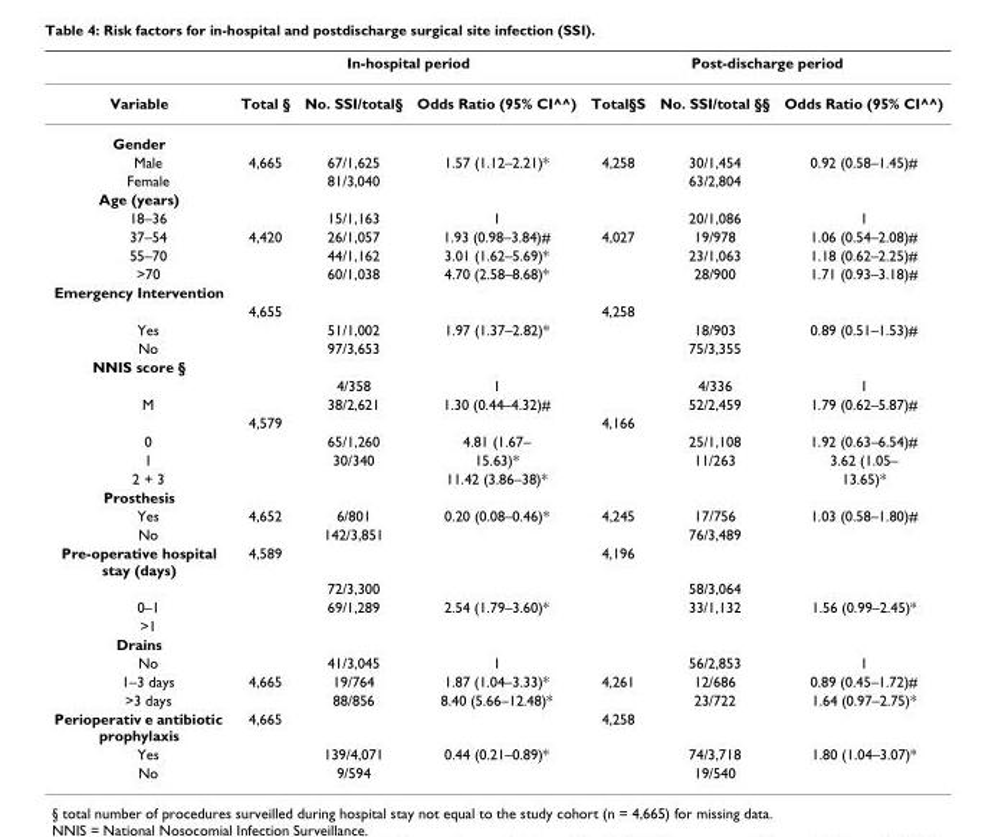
<table><thead><tr><td rowspan="2">Variable</td><td colspan="3">In-hospital period</td><td colspan="3">Post-discharge period</td></tr><tr><td>Total §</td><td>No. SSI/total§</td><td>Odds Ratio (95% CI^^)</td><td>Total§S</td><td>No. SSI/total §§</td><td>Odds Ratio (95% CI^^)</td></tr></thead><tbody><tr><td colspan="7">Gender</td></tr><tr><td>Male</td><td>4,665</td><td>67/1,625</td><td>1.57 (1.12–2.21)*</td><td>4,258</td><td>30/1,454</td><td>0.92 (0.58–1.45)#</td></tr><tr><td>Female</td><td></td><td>81/3,040</td><td></td><td></td><td>63/2,804</td><td></td></tr><tr><td colspan="7">Age (years)</td></tr><tr><td>18–36</td><td></td><td>15/1,163</td><td>1</td><td></td><td>20/1,086</td><td>1</td></tr><tr><td>37–54</td><td>4,420</td><td>26/1,057</td><td>1.93 (0.98–3.84)#</td><td>4,027</td><td>19/978</td><td>1.06 (0.54–2.08)#</td></tr><tr><td>55–70</td><td></td><td>44/1,162</td><td>3.01 (1.62–5.69)*</td><td></td><td>23/1,063</td><td>1.18 (0.62–2.25)#</td></tr><tr><td>&gt;70</td><td></td><td>60/1,038</td><td>4.70 (2.58–8.68)*</td><td></td><td>28/900</td><td>1.71 (0.93–3.18)#</td></tr><tr><td colspan="7">Emergency Intervention</td></tr><tr><td></td><td>4,655</td><td></td><td></td><td>4,258</td><td></td><td></td></tr><tr><td>Yes</td><td></td><td>51/1,002</td><td>1.97 (1.37–2.82)*</td><td></td><td>18/903</td><td>0.89 (0.51–1.53)#</td></tr><tr><td>No</td><td></td><td>97/3,653</td><td></td><td></td><td>75/3,355</td><td></td></tr><tr><td colspan="7">NNIS score §</td></tr><tr><td></td><td></td><td>4/358</td><td>1</td><td></td><td>4/336</td><td>1</td></tr><tr><td rowspan="2">M</td><td></td><td>38/2,621</td><td>1.30 (0.44–4.32)#</td><td></td><td>52/2,459</td><td>1.79 (0.62–5.87)#</td></tr><tr><td>4,579</td><td></td><td></td><td>4,166</td><td></td><td></td></tr><tr><td>0</td><td></td><td>65/1,260</td><td>4.81 (1.67–</td><td></td><td>25/1,108</td><td>1.92 (0.63–6.54)#</td></tr><tr><td>1</td><td></td><td>30/340</td><td>15.63)*</td><td></td><td>11/263</td><td>3.62 (1.05–</td></tr><tr><td>2 + 3</td><td></td><td></td><td>11.42 (3.86–38)*</td><td></td><td></td><td>13.65)*</td></tr><tr><td colspan="7">Prosthesis</td></tr><tr><td>Yes</td><td>4,652</td><td>6/801</td><td>0.20 (0.08–0.46)*</td><td>4,245</td><td>17/756</td><td>1.03 (0.58–1.80)#</td></tr><tr><td>No</td><td></td><td>142/3,851</td><td></td><td></td><td>76/3,489</td><td></td></tr><tr><td rowspan="2">Pre-operative hospital stay (days)</td><td>4,589</td><td></td><td></td><td>4,196</td><td></td><td></td></tr><tr><td></td><td>72/3,300</td><td></td><td></td><td>58/3,064</td><td></td></tr><tr><td>0–1</td><td></td><td>69/1,289</td><td>2.54 (1.79–3.60)*</td><td></td><td>33/1,132</td><td>1.56 (0.99–2.45)*</td></tr><tr><td colspan="7">&gt;1</td></tr><tr><td colspan="7">Drains</td></tr><tr><td>No</td><td></td><td>41/3,045</td><td>1</td><td></td><td>56/2,853</td><td>1</td></tr><tr><td>1–3 days</td><td>4,665</td><td>19/764</td><td>1.87 (1.04–3.33)*</td><td>4,261</td><td>12/686</td><td>0.89 (0.45–1.72)#</td></tr><tr><td>&gt;3 days</td><td></td><td>88/856</td><td>8.40 (5.66–12.48)*</td><td></td><td>23/722</td><td>1.64 (0.97–2.75)*</td></tr><tr><td>Perioperativ e antibiotic prophylaxis</td><td>4,665</td><td></td><td></td><td>4,258</td><td></td><td></td></tr><tr><td>Yes</td><td></td><td>139/4,071</td><td>0.44 (0.21–0.89)*</td><td></td><td>74/3,718</td><td>1.80 (1.04–3.07)*</td></tr><tr><td>No</td><td></td><td>9/594</td><td></td><td></td><td>19/540</td><td></td></tr></tbody></table>